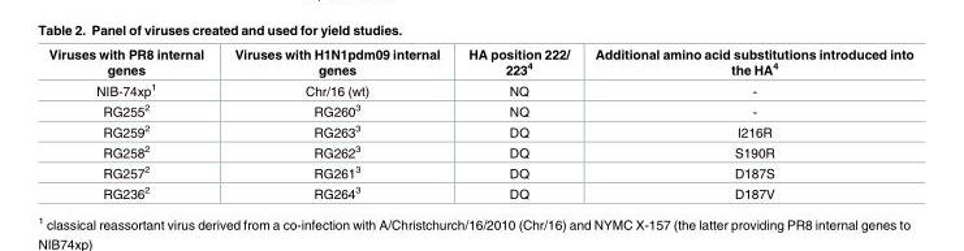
<table><thead><tr><td>Viruses with PR8 internal genes</td><td>Viruses with H1N1pdm09 internal genes</td><td>HA position 222/ 223<sup>4</sup></td><td>Additional amino acid substitutions introduced into the HA<sup>4</sup></td></tr></thead><tbody><tr><td>NIB-74xp<sup>1</sup></td><td>Chr/16 (wt)</td><td>NQ</td><td>-</td></tr><tr><td>RG255<sup>2</sup></td><td>RG260<sup>3</sup></td><td>NQ</td><td>-</td></tr><tr><td>RG259<sup>2</sup></td><td>RG263<sup>3</sup></td><td>DQ</td><td>I216R</td></tr><tr><td>RG258<sup>2</sup></td><td>RG262<sup>3</sup></td><td>DQ</td><td>S190R</td></tr><tr><td>RG257<sup>2</sup></td><td>RG261<sup>3</sup></td><td>DQ</td><td>D187S</td></tr><tr><td>RG236<sup>2</sup></td><td>RG264<sup>3</sup></td><td>DQ</td><td>D187V</td></tr></tbody></table>